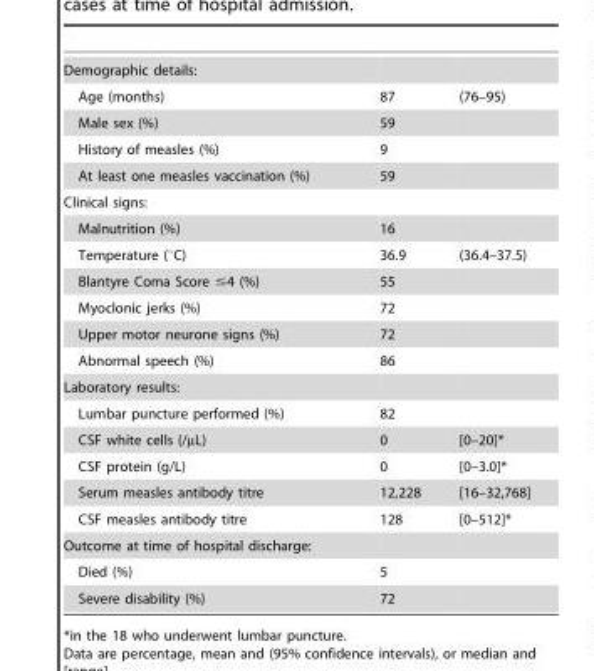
<table><tbody><tr><td colspan="3">Demographic details:</td></tr><tr><td>Age (months)</td><td>87</td><td>(76–95)</td></tr><tr><td>Male sex (%)</td><td>59</td><td></td></tr><tr><td>History of measles (%)</td><td>9</td><td></td></tr><tr><td>At least one measles vaccination (%)</td><td>59</td><td></td></tr><tr><td colspan="3">Clinical signs:</td></tr><tr><td>Malnutrition (%)</td><td>16</td><td></td></tr><tr><td>Temperature (°C)</td><td>36.9</td><td>(36.4–37.5)</td></tr><tr><td>Blantyre Coma Score ≤4 (%)</td><td>55</td><td></td></tr><tr><td>Myoclonic jerks (%)</td><td>72</td><td></td></tr><tr><td>Upper motor neurone signs (%)</td><td>72</td><td></td></tr><tr><td>Abnormal speech (%)</td><td>86</td><td></td></tr><tr><td colspan="3">Laboratory results:</td></tr><tr><td>Lumbar puncture performed (%)</td><td>82</td><td></td></tr><tr><td>CSF white cells (/µL)</td><td>0</td><td>[0–20]*</td></tr><tr><td>CSF protein (g/L)</td><td>0</td><td>[0–3.0]*</td></tr><tr><td>Serum measles antibody titre</td><td>12,228</td><td>[16–32,768]</td></tr><tr><td>CSF measles antibody titre</td><td>128</td><td>[0–512]*</td></tr><tr><td colspan="3">Outcome at time of hospital discharge:</td></tr><tr><td>Died (%)</td><td>5</td><td></td></tr><tr><td>Severe disability (%)</td><td>72</td><td></td></tr></tbody></table>